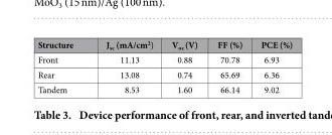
<table><thead><tr><td>Structure</td><td>J<sub>sc</sub> (mA/cm<sup>2</sup>)</td><td>V<sub>oc</sub> (V)</td><td>FF (%)</td><td>PCE (%)</td></tr></thead><tbody><tr><td>Front</td><td>11.13</td><td>0.88</td><td>70.78</td><td>6.93</td></tr><tr><td>Rear</td><td>13.08</td><td>0.74</td><td>65.69</td><td>6.36</td></tr><tr><td>Tandem</td><td>8.53</td><td>1.60</td><td>66.14</td><td>9.02</td></tr></tbody></table>